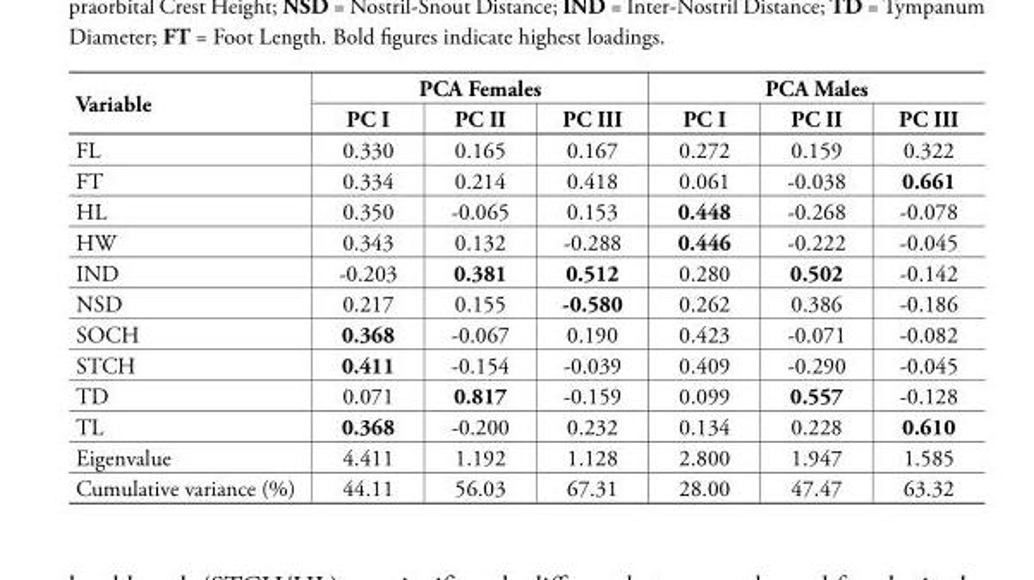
<table><thead><tr><td rowspan="2">Variable</td><td colspan="3">PCA Females</td><td colspan="3">PCA Males</td></tr><tr><td>PC I</td><td>PC II</td><td>PC III</td><td>PC I</td><td>PC II</td><td>PC III</td></tr></thead><tbody><tr><td>FL</td><td>0.330</td><td>0.165</td><td>0.167</td><td>0.272</td><td>0.159</td><td>0.322</td></tr><tr><td>FT</td><td>0.334</td><td>0.214</td><td>0.418</td><td>0.061</td><td>-0.038</td><td>0.661</td></tr><tr><td>HL</td><td>0.350</td><td>-0.065</td><td>0.153</td><td>0.448</td><td>-0.268</td><td>-0.078</td></tr><tr><td>HW</td><td>0.343</td><td>0.132</td><td>-0.288</td><td>0.446</td><td>-0.222</td><td>-0.045</td></tr><tr><td>IND</td><td>-0.203</td><td>0.381</td><td>0.512</td><td>0.280</td><td>0.502</td><td>-0.142</td></tr><tr><td>NSD</td><td>0.217</td><td>0.155</td><td>-0.580</td><td>0.262</td><td>0.386</td><td>-0.186</td></tr><tr><td>SOCH</td><td>0.368</td><td>-0.067</td><td>0.190</td><td>0.423</td><td>-0.071</td><td>-0.082</td></tr><tr><td>STCH</td><td>0.411</td><td>-0.154</td><td>-0.039</td><td>0.409</td><td>-0.290</td><td>-0.045</td></tr><tr><td>TD</td><td>0.071</td><td>0.817</td><td>-0.159</td><td>0.099</td><td>0.557</td><td>-0.128</td></tr><tr><td>TL</td><td>0.368</td><td>-0.200</td><td>0.232</td><td>0.134</td><td>0.228</td><td>0.610</td></tr><tr><td>Eigenvalue</td><td>4.411</td><td>1.192</td><td>1.128</td><td>2.800</td><td>1.947</td><td>1.585</td></tr><tr><td>Cumulative variance (%)</td><td>44.11</td><td>56.03</td><td>67.31</td><td>28.00</td><td>47.47</td><td>63.32</td></tr></tbody></table>